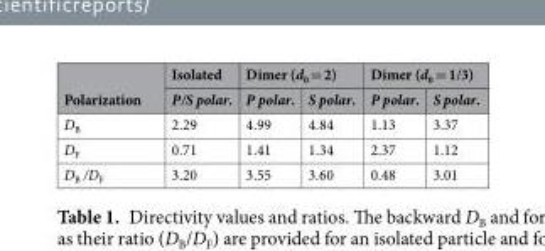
<table><thead><tr><td rowspan="2">Polarization</td><td rowspan="2">Isolated P/S polar.</td><td colspan="2">Dimer (d<sub>0</sub> = 2)</td><td colspan="2">Dimer (d<sub>0</sub> = 1/3)</td></tr><tr><td>P polar.</td><td>S polar.</td><td>P polar.</td><td>S polar.</td></tr></thead><tbody><tr><td>D<sub>B</sub></td><td>2.29</td><td>4.99</td><td>4.84</td><td>1.13</td><td>3.37</td></tr><tr><td>D<sub>F</sub></td><td>0.71</td><td>1.41</td><td>1.34</td><td>2.37</td><td>1.12</td></tr><tr><td>D<sub>B</sub> /D<sub>F</sub></td><td>3.20</td><td>3.55</td><td>3.60</td><td>0.48</td><td>3.01</td></tr></tbody></table>